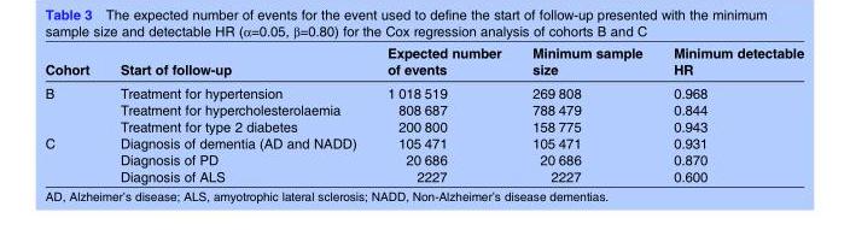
<table><thead><tr><td>Cohort</td><td>Start of follow-up</td><td>Expected number of events</td><td>Minimum sample size</td><td>Minimum detectable HR</td></tr></thead><tbody><tr><td rowspan="3">B</td><td>Treatment for hypertension</td><td>1 018 519</td><td>269 808</td><td>0.968</td></tr><tr><td>Treatment for hypercholesterolaemia</td><td>808 687</td><td>788 479</td><td>0.844</td></tr><tr><td>Treatment for type 2 diabetes</td><td>200 800</td><td>158 775</td><td>0.943</td></tr><tr><td rowspan="3">C</td><td>Diagnosis of dementia (AD and NADD)</td><td>105 471</td><td>105 471</td><td>0.931</td></tr><tr><td>Diagnosis of PD</td><td>20 686</td><td>20 686</td><td>0.870</td></tr><tr><td>Diagnosis of ALS</td><td>2227</td><td>2227</td><td>0.600</td></tr></tbody></table>